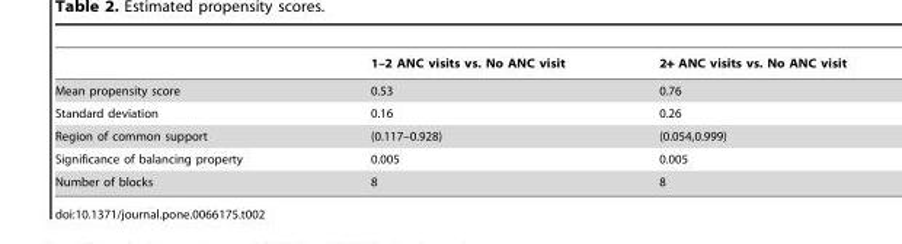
<table><thead><tr><td></td><td>1–2 ANC visits vs. No ANC visit</td><td>2+ ANC visits vs. No ANC visit</td></tr></thead><tbody><tr><td>Mean propensity score</td><td>0.53</td><td>0.76</td></tr><tr><td>Standard deviation</td><td>0.16</td><td>0.26</td></tr><tr><td>Region of common support</td><td>(0.117–0.928)</td><td>(0.054,0.999)</td></tr><tr><td>Significance of balancing property</td><td>0.005</td><td>0.005</td></tr><tr><td>Number of blocks</td><td>8</td><td>8</td></tr></tbody></table>